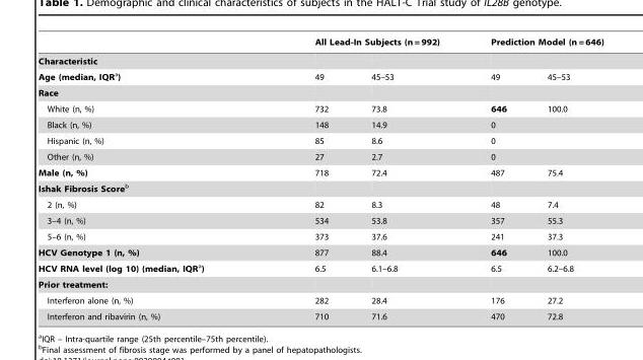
<table><thead><tr><td rowspan="2">Characteristic</td><td colspan="2">All Lead-In Subjects (n = 992)</td><td colspan="2">Prediction Model (n = 646)</td></tr><tr><td></td><td></td><td></td><td></td></tr></thead><tbody><tr><td>Age (median, IQRa)</td><td>49</td><td>45–53</td><td>49</td><td>45–53</td></tr><tr><td colspan="5">Race</td></tr><tr><td>White (n, %)</td><td>732</td><td>73.8</td><td>646</td><td>100.0</td></tr><tr><td>Black (n, %)</td><td>148</td><td>14.9</td><td>0</td><td></td></tr><tr><td>Hispanic (n, %)</td><td>85</td><td>8.6</td><td>0</td><td></td></tr><tr><td>Other (n, %)</td><td>27</td><td>2.7</td><td>0</td><td></td></tr><tr><td>Male (n, %)</td><td>718</td><td>72.4</td><td>487</td><td>75.4</td></tr><tr><td colspan="5">Ishak Fibrosis Scoreb</td></tr><tr><td>2 (n, %)</td><td>82</td><td>8.3</td><td>48</td><td>7.4</td></tr><tr><td>3–4 (n, %)</td><td>534</td><td>53.8</td><td>357</td><td>55.3</td></tr><tr><td>5–6 (n, %)</td><td>373</td><td>37.6</td><td>241</td><td>37.3</td></tr><tr><td>HCV Genotype 1 (n, %)</td><td>877</td><td>88.4</td><td>646</td><td>100.0</td></tr><tr><td>HCV RNA level (log 10) (median, IQRa)</td><td>6.5</td><td>6.1–6.8</td><td>6.5</td><td>6.2–6.8</td></tr><tr><td colspan="5">Prior treatment:</td></tr><tr><td>Interferon alone (n, %)</td><td>282</td><td>28.4</td><td>176</td><td>27.2</td></tr><tr><td>Interferon and ribavirin (n, %)</td><td>710</td><td>71.6</td><td>470</td><td>72.8</td></tr></tbody></table>